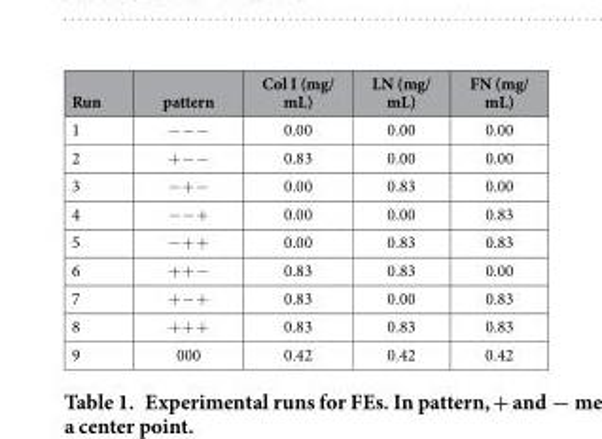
<table><thead><tr><td>Run</td><td>pattern</td><td>Col I (mg/ mL)</td><td>LN (mg/ mL)</td><td>FN (mg/ mL)</td></tr></thead><tbody><tr><td>1</td><td>− − −</td><td>0.00</td><td>0.00</td><td>0.00</td></tr><tr><td>2</td><td>+ − −</td><td>0.83</td><td>0.00</td><td>0.00</td></tr><tr><td>3</td><td>− + −</td><td>0.00</td><td>0.83</td><td>0.00</td></tr><tr><td>4</td><td>− − +</td><td>0.00</td><td>0.00</td><td>0.83</td></tr><tr><td>5</td><td>− + +</td><td>0.00</td><td>0.83</td><td>0.83</td></tr><tr><td>6</td><td>+ + −</td><td>0.83</td><td>0.83</td><td>0.00</td></tr><tr><td>7</td><td>+ − +</td><td>0.83</td><td>0.00</td><td>0.83</td></tr><tr><td>8</td><td>+ + +</td><td>0.83</td><td>0.83</td><td>0.83</td></tr><tr><td>9</td><td>000</td><td>0.42</td><td>0.42</td><td>0.42</td></tr></tbody></table>